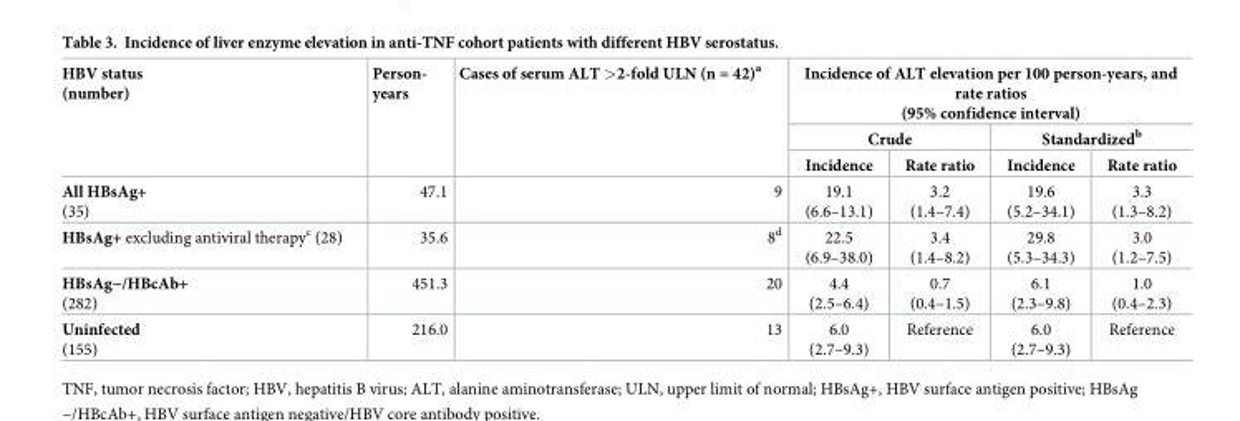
<table><thead><tr><td rowspan="3">HBV status (number)</td><td rowspan="3">Person- years</td><td rowspan="3">Cases of serum ALT &gt;2-fold ULN (n = 42)<sup>a</sup></td><td colspan="4">Incidence of ALT elevation per 100 person-years, and rate ratios (95% confidence interval)</td></tr><tr><td colspan="2">Crude</td><td colspan="2">Standardized<sup>b</sup></td></tr><tr><td>Incidence</td><td>Rate ratio</td><td>Incidence</td><td>Rate ratio</td></tr></thead><tbody><tr><td>All HBsAg+ (35)</td><td>47.1</td><td>9</td><td>19.1 (6.6–13.1)</td><td>3.2 (1.4–7.4)</td><td>19.6 (5.2–34.1)</td><td>3.3 (1.3–8.2)</td></tr><tr><td>HBsAg+ excluding antiviral therapy<sup>c</sup> (28)</td><td>35.6</td><td>8<sup>d</sup></td><td>22.5 (6.9–38.0)</td><td>3.4 (1.4–8.2)</td><td>29.8 (5.3–34.3)</td><td>3.0 (1.2–7.5)</td></tr><tr><td>HBsAg−/HBcAb+ (282)</td><td>451.3</td><td>20</td><td>4.4 (2.5–6.4)</td><td>0.7 (0.4–1.5)</td><td>6.1 (2.3–9.8)</td><td>1.0 (0.4–2.3)</td></tr><tr><td>Uninfected (155)</td><td>216.0</td><td>13</td><td>6.0 (2.7–9.3)</td><td>Reference</td><td>6.0 (2.7–9.3)</td><td>Reference</td></tr></tbody></table>